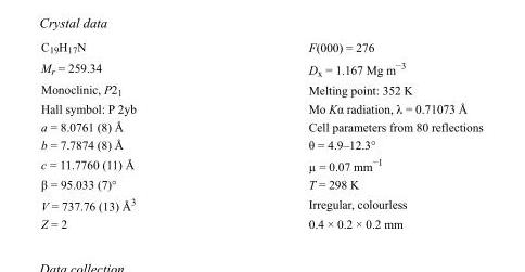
<table><tbody><tr><td>C<sub>19</sub>H<sub>17</sub>N</td><td>F(000) = 276</td></tr><tr><td>M<sub>r</sub> = 259.34</td><td>D<sub>x</sub> = 1.167 Mg m<sup>−3</sup></td></tr><tr><td>Monoclinic, P2<sub>1</sub></td><td>Melting point: 352 K</td></tr><tr><td>Hall symbol: P 2yb</td><td>Mo Kα radiation, λ = 0.71073 Å</td></tr><tr><td>a = 8.0761 (8) Å</td><td>Cell parameters from 80 reflections</td></tr><tr><td>b = 7.7874 (8) Å</td><td>θ = 4.9–12.3°</td></tr><tr><td>c = 11.7760 (11) Å</td><td>µ = 0.07 mm<sup>−1</sup></td></tr><tr><td>β = 95.033 (7)°</td><td>T = 298 K</td></tr><tr><td>V = 737.76 (13) Å<sup>3</sup></td><td>Irregular, colourless</td></tr><tr><td>Z = 2</td><td>0.4 × 0.2 × 0.2 mm</td></tr></tbody></table>